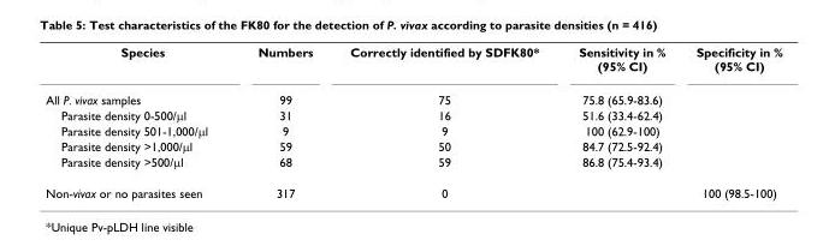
<table><tbody><tr><td>Species</td><td>Numbers</td><td>Correctly identified by SDFK80*</td><td>Sensitivity in % (95% CI)</td><td>Specificity in % (95% CI)</td></tr><tr><td>All P. vivax samples</td><td>99</td><td>75</td><td>75.8 (65.9-83.6)</td><td></td></tr><tr><td>Parasite density 0-500/μl</td><td>31</td><td>16</td><td>51.6 (33.4-62.4)</td><td></td></tr><tr><td>Parasite density 501-1,000/μl</td><td>9</td><td>9</td><td>100 (62.9-100)</td><td></td></tr><tr><td>Parasite density &gt;1,000/μl</td><td>59</td><td>50</td><td>84.7 (72.5-92.4)</td><td></td></tr><tr><td>Parasite density &gt;500/μl</td><td>68</td><td>59</td><td>86.8 (75.4-93.4)</td><td></td></tr><tr><td>Non-vivax or no parasites seen</td><td>317</td><td>0</td><td></td><td>100 (98.5-100)</td></tr></tbody></table>